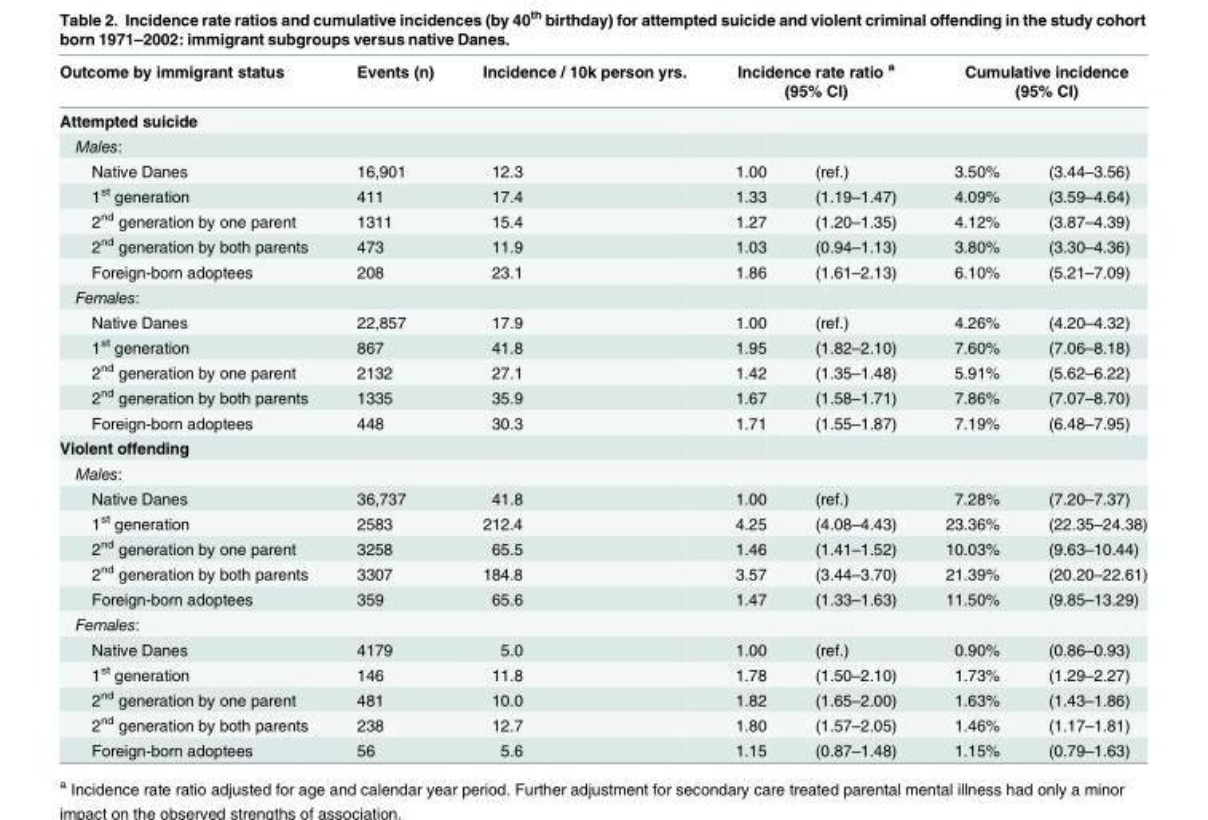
<table><thead><tr><td rowspan="2">Outcome by immigrant status Attempted suicide</td><td rowspan="2">Events (n)</td><td rowspan="2">Incidence / 10k person yrs.</td><td colspan="2">Incidence rate ratio <sup>a</sup> (95% CI)</td><td colspan="2">Cumulative incidence (95% CI)</td></tr><tr><td></td><td></td><td></td><td></td></tr></thead><tbody><tr><td colspan="7">Males:</td></tr><tr><td>Native Danes</td><td>16,901</td><td>12.3</td><td>1.00</td><td>(ref.)</td><td>3.50%</td><td>(3.44–3.56)</td></tr><tr><td>1<sup>st</sup> generation</td><td>411</td><td>17.4</td><td>1.33</td><td>(1.19–1.47)</td><td>4.09%</td><td>(3.59–4.64)</td></tr><tr><td>2<sup>nd</sup> generation by one parent</td><td>1311</td><td>15.4</td><td>1.27</td><td>(1.20–1.35)</td><td>4.12%</td><td>(3.87–4.39)</td></tr><tr><td>2<sup>nd</sup> generation by both parents</td><td>473</td><td>11.9</td><td>1.03</td><td>(0.94–1.13)</td><td>3.80%</td><td>(3.30–4.36)</td></tr><tr><td>Foreign-born adoptees</td><td>208</td><td>23.1</td><td>1.86</td><td>(1.61–2.13)</td><td>6.10%</td><td>(5.21–7.09)</td></tr><tr><td colspan="7">Females:</td></tr><tr><td>Native Danes</td><td>22,857</td><td>17.9</td><td>1.00</td><td>(ref.)</td><td>4.26%</td><td>(4.20–4.32)</td></tr><tr><td>1<sup>st</sup> generation</td><td>867</td><td>41.8</td><td>1.95</td><td>(1.82–2.10)</td><td>7.60%</td><td>(7.06–8.18)</td></tr><tr><td>2<sup>nd</sup> generation by one parent</td><td>2132</td><td>27.1</td><td>1.42</td><td>(1.35–1.48)</td><td>5.91%</td><td>(5.62–6.22)</td></tr><tr><td>2<sup>nd</sup> generation by both parents</td><td>1335</td><td>35.9</td><td>1.67</td><td>(1.58–1.71)</td><td>7.86%</td><td>(7.07–8.70)</td></tr><tr><td>Foreign-born adoptees</td><td>448</td><td>30.3</td><td>1.71</td><td>(1.55–1.87)</td><td>7.19%</td><td>(6.48–7.95)</td></tr><tr><td colspan="7">Violent offending</td></tr><tr><td colspan="7">Males:</td></tr><tr><td>Native Danes</td><td>36,737</td><td>41.8</td><td>1.00</td><td>(ref.)</td><td>7.28%</td><td>(7.20–7.37)</td></tr><tr><td>1<sup>st</sup> generation</td><td>2583</td><td>212.4</td><td>4.25</td><td>(4.08–4.43)</td><td>23.36%</td><td>(22.35–24.38)</td></tr><tr><td>2<sup>nd</sup> generation by one parent</td><td>3258</td><td>65.5</td><td>1.46</td><td>(1.41–1.52)</td><td>10.03%</td><td>(9.63–10.44)</td></tr><tr><td>2<sup>nd</sup> generation by both parents</td><td>3307</td><td>184.8</td><td>3.57</td><td>(3.44–3.70)</td><td>21.39%</td><td>(20.20–22.61)</td></tr><tr><td>Foreign-born adoptees</td><td>359</td><td>65.6</td><td>1.47</td><td>(1.33–1.63)</td><td>11.50%</td><td>(9.85–13.29)</td></tr><tr><td colspan="7">Females:</td></tr><tr><td>Native Danes</td><td>4179</td><td>5.0</td><td>1.00</td><td>(ref.)</td><td>0.90%</td><td>(0.86–0.93)</td></tr><tr><td>1<sup>st</sup> generation</td><td>146</td><td>11.8</td><td>1.78</td><td>(1.50–2.10)</td><td>1.73%</td><td>(1.29–2.27)</td></tr><tr><td>2<sup>nd</sup> generation by one parent</td><td>481</td><td>10.0</td><td>1.82</td><td>(1.65–2.00)</td><td>1.63%</td><td>(1.43–1.86)</td></tr><tr><td>2<sup>nd</sup> generation by both parents</td><td>238</td><td>12.7</td><td>1.80</td><td>(1.57–2.05)</td><td>1.46%</td><td>(1.17–1.81)</td></tr><tr><td>Foreign-born adoptees</td><td>56</td><td>5.6</td><td>1.15</td><td>(0.87–1.48)</td><td>1.15%</td><td>(0.79–1.63)</td></tr></tbody></table>